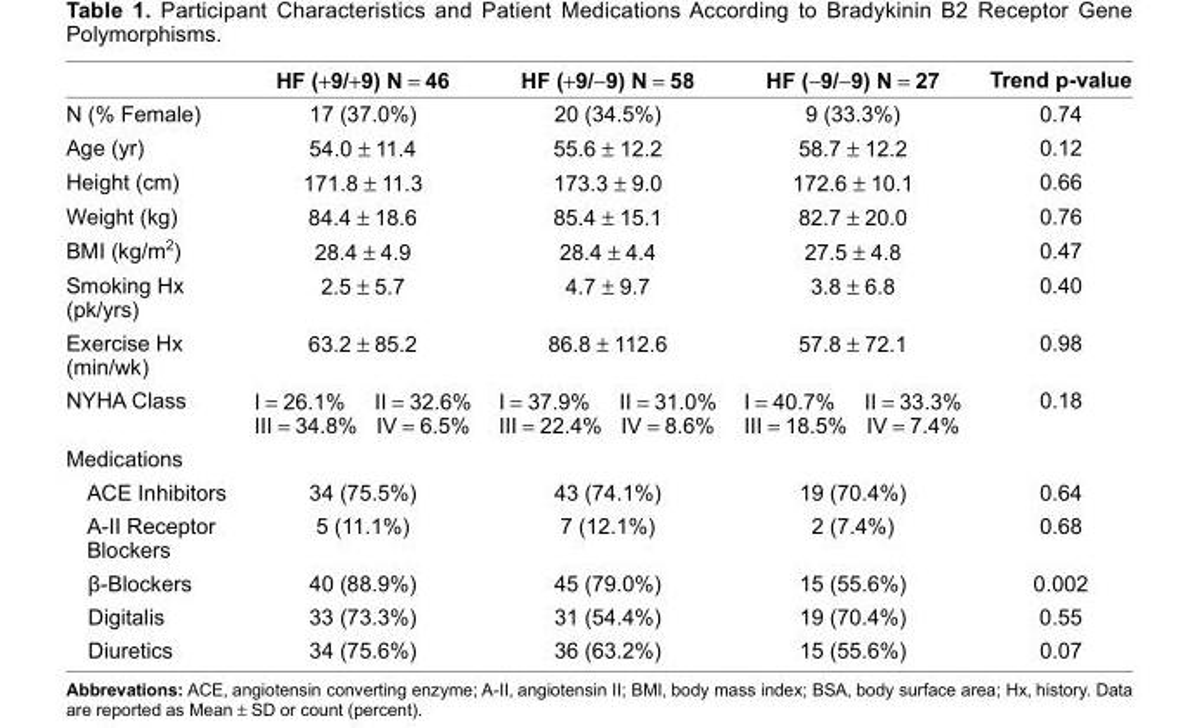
<table><thead><tr><td></td><td>HF (+9/+9) N = 46</td><td>HF (+9/−9) N = 58</td><td>HF (−9/−9) N = 27</td><td>Trend p-value</td></tr></thead><tbody><tr><td>N (% Female)</td><td>17 (37.0%)</td><td>20 (34.5%)</td><td>9 (33.3%)</td><td>0.74</td></tr><tr><td>Age (yr)</td><td>54.0 ± 11.4</td><td>55.6 ± 12.2</td><td>58.7 ± 12.2</td><td>0.12</td></tr><tr><td>Height (cm)</td><td>171.8 ± 11.3</td><td>173.3 ± 9.0</td><td>172.6 ± 10.1</td><td>0.66</td></tr><tr><td>Weight (kg)</td><td>84.4 ± 18.6</td><td>85.4 ± 15.1</td><td>82.7 ± 20.0</td><td>0.76</td></tr><tr><td>BMI (kg/m<sup>2</sup>)</td><td>28.4 ± 4.9</td><td>28.4 ± 4.4</td><td>27.5 ± 4.8</td><td>0.47</td></tr><tr><td>Smoking Hx (pk/yrs)</td><td>2.5 ± 5.7</td><td>4.7 ± 9.7</td><td>3.8 ± 6.8</td><td>0.40</td></tr><tr><td>Exercise Hx (min/wk)</td><td>63.2 ± 85.2</td><td>86.8 ± 112.6</td><td>57.8 ± 72.1</td><td>0.98</td></tr><tr><td>NYHA Class</td><td>I = 26.1% II = 32.6% III = 34.8% IV = 6.5%</td><td>I = 37.9% II = 31.0% III = 22.4% IV = 8.6%</td><td>I = 40.7% II = 33.3% III = 18.5% IV = 7.4%</td><td>0.18</td></tr><tr><td colspan="5">Medications</td></tr><tr><td>ACE Inhibitors</td><td>34 (75.5%)</td><td>43 (74.1%)</td><td>19 (70.4%)</td><td>0.64</td></tr><tr><td>A-II Receptor Blockers</td><td>5 (11.1%)</td><td>7 (12.1%)</td><td>2 (7.4%)</td><td>0.68</td></tr><tr><td>β-Blockers</td><td>40 (88.9%)</td><td>45 (79.0%)</td><td>15 (55.6%)</td><td>0.002</td></tr><tr><td>Digitalis</td><td>33 (73.3%)</td><td>31 (54.4%)</td><td>19 (70.4%)</td><td>0.55</td></tr><tr><td>Diuretics</td><td>34 (75.6%)</td><td>36 (63.2%)</td><td>15 (55.6%)</td><td>0.07</td></tr></tbody></table>